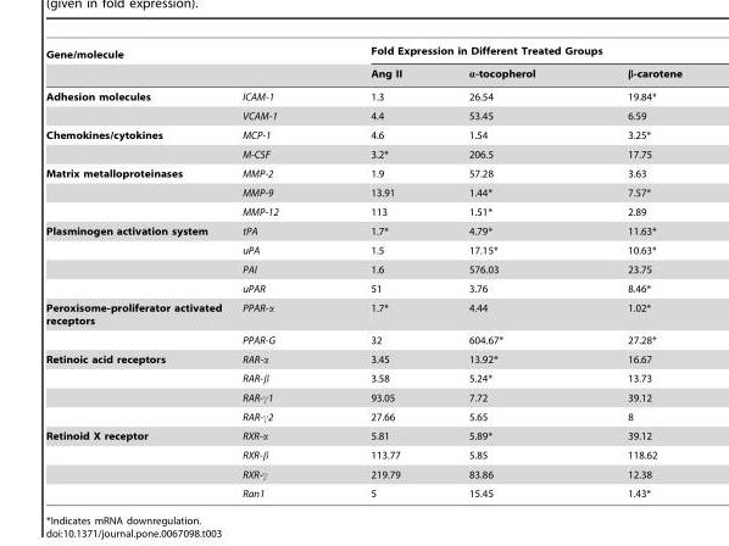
<table><thead><tr><td colspan="2">Gene/molecule</td><td colspan="3">Fold Expression in Different Treated Groups</td></tr><tr><td></td><td></td><td>Ang II</td><td>α-tocopherol</td><td>β-carotene</td></tr></thead><tbody><tr><td rowspan="2">Adhesion molecules</td><td>ICAM-1</td><td>1.3</td><td>26.54</td><td>19.84*</td></tr><tr><td>VCAM-1</td><td>4.4</td><td>53.45</td><td>6.59</td></tr><tr><td rowspan="2">Chemokines/cytokines</td><td>MCP-1</td><td>4.6</td><td>1.54</td><td>3.25*</td></tr><tr><td>M-CSF</td><td>3.2*</td><td>206.5</td><td>17.75</td></tr><tr><td rowspan="3">Matrix metalloproteinases</td><td>MMP-2</td><td>1.9</td><td>57.28</td><td>3.63</td></tr><tr><td>MMP-9</td><td>13.91</td><td>1.44*</td><td>7.57*</td></tr><tr><td>MMP-12</td><td>113</td><td>1.51*</td><td>2.89</td></tr><tr><td rowspan="4">Plasminogen activation system</td><td>tPA</td><td>1.7*</td><td>4.79*</td><td>11.63*</td></tr><tr><td>uPA</td><td>1.5</td><td>17.15*</td><td>10.63*</td></tr><tr><td>PAI</td><td>1.6</td><td>576.03</td><td>23.75</td></tr><tr><td>uPAR</td><td>51</td><td>3.76</td><td>8.46*</td></tr><tr><td rowspan="2">Peroxisome-proliferator activated receptors</td><td>PPAR-α</td><td>1.7*</td><td>4.44</td><td>1.02*</td></tr><tr><td>PPAR-G</td><td>32</td><td>604.67*</td><td>27.28*</td></tr><tr><td rowspan="4">Retinoic acid receptors</td><td>RAR-α</td><td>3.45</td><td>13.92*</td><td>16.67</td></tr><tr><td>RAR-β</td><td>3.58</td><td>5.24*</td><td>13.73</td></tr><tr><td>RAR-γ1</td><td>93.05</td><td>7.72</td><td>39.12</td></tr><tr><td>RAR-γ2</td><td>27.66</td><td>5.65</td><td>8</td></tr><tr><td rowspan="4">Retinoid X receptor</td><td>RXR-α</td><td>5.81</td><td>5.89*</td><td>39.12</td></tr><tr><td>RXR-β</td><td>113.77</td><td>5.85</td><td>118.62</td></tr><tr><td>RXR-γ</td><td>219.79</td><td>83.86</td><td>12.38</td></tr><tr><td>Ran1</td><td>5</td><td>15.45</td><td>1.43*</td></tr></tbody></table>